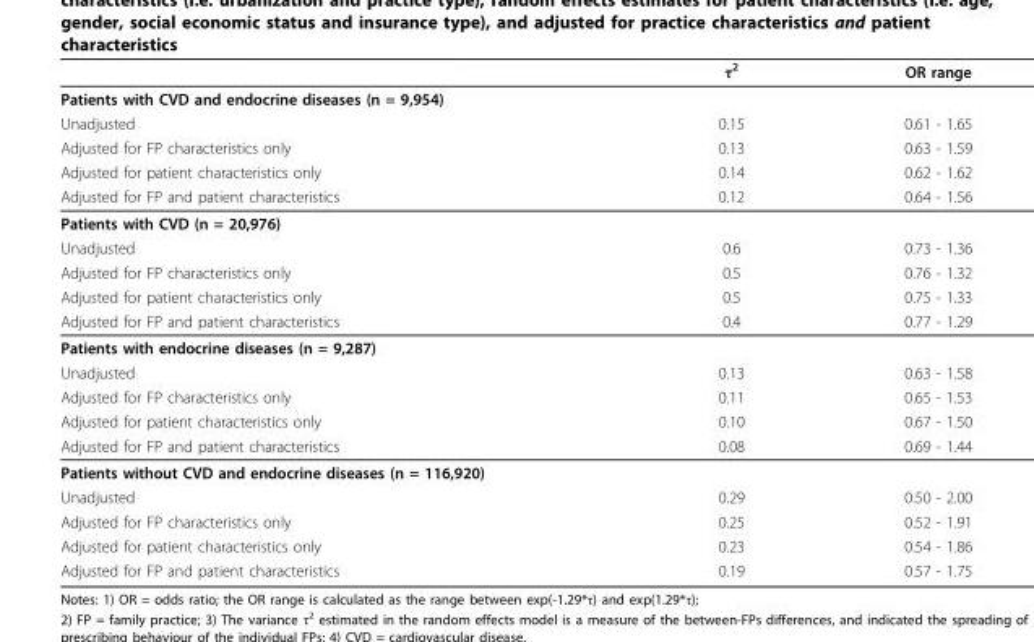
<table><thead><tr><td></td><td>τ<sup>2</sup></td><td>OR range</td></tr></thead><tbody><tr><td colspan="3">Patients with CVD and endocrine diseases (n = 9,954)</td></tr><tr><td>Unadjusted</td><td>0.15</td><td>0.61 - 1.65</td></tr><tr><td>Adjusted for FP characteristics only</td><td>0.13</td><td>0.63 - 1.59</td></tr><tr><td>Adjusted for patient characteristics only</td><td>0.14</td><td>0.62 - 1.62</td></tr><tr><td>Adjusted for FP and patient characteristics</td><td>0.12</td><td>0.64 - 1.56</td></tr><tr><td colspan="3">Patients with CVD (n = 20,976)</td></tr><tr><td>Unadjusted</td><td>0.6</td><td>0.73 - 1.36</td></tr><tr><td>Adjusted for FP characteristics only</td><td>0.5</td><td>0.76 - 1.32</td></tr><tr><td>Adjusted for patient characteristics only</td><td>0.5</td><td>0.75 - 1.33</td></tr><tr><td>Adjusted for FP and patient characteristics</td><td>0.4</td><td>0.77 - 1.29</td></tr><tr><td colspan="3">Patients with endocrine diseases (n = 9,287)</td></tr><tr><td>Unadjusted</td><td>0.13</td><td>0.63 - 1.58</td></tr><tr><td>Adjusted for FP characteristics only</td><td>0.11</td><td>0.65 - 1.53</td></tr><tr><td>Adjusted for patient characteristics only</td><td>0.10</td><td>0.67 - 1.50</td></tr><tr><td>Adjusted for FP and patient characteristics</td><td>0.08</td><td>0.69 - 1.44</td></tr><tr><td colspan="3">Patients without CVD and endocrine diseases (n = 116,920)</td></tr><tr><td>Unadjusted</td><td>0.29</td><td>0.50 - 2.00</td></tr><tr><td>Adjusted for FP characteristics only</td><td>0.25</td><td>0.52 - 1.91</td></tr><tr><td>Adjusted for patient characteristics only</td><td>0.23</td><td>0.54 - 1.86</td></tr><tr><td>Adjusted for FP and patient characteristics</td><td>0.19</td><td>0.57 - 1.75</td></tr></tbody></table>